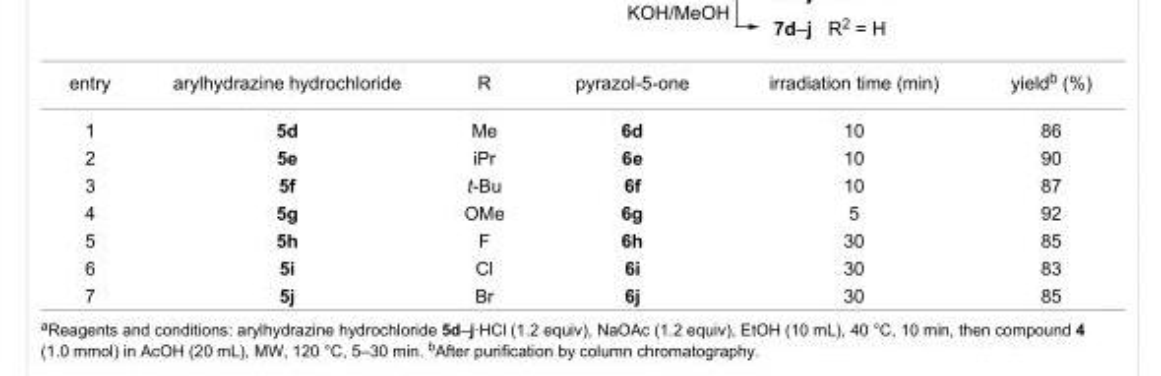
<table><tbody><tr><td>entry</td><td>arylhydrazine hydrochloride</td><td>R</td><td>pyrazol-5-one</td><td>irradiation time (min)</td><td>yield<sup>b</sup> (%)</td></tr><tr><td>1</td><td>5d</td><td>Me</td><td>6d</td><td>10</td><td>86</td></tr><tr><td>2</td><td>5e</td><td>iPr</td><td>6e</td><td>10</td><td>90</td></tr><tr><td>3</td><td>5f</td><td>t-Bu</td><td>6f</td><td>10</td><td>87</td></tr><tr><td>4</td><td>5g</td><td>OMe</td><td>6g</td><td>5</td><td>92</td></tr><tr><td>5</td><td>5h</td><td>F</td><td>6h</td><td>30</td><td>85</td></tr><tr><td>6</td><td>5i</td><td>Cl</td><td>6i</td><td>30</td><td>83</td></tr><tr><td>7</td><td>5j</td><td>Br</td><td>6j</td><td>30</td><td>85</td></tr></tbody></table>